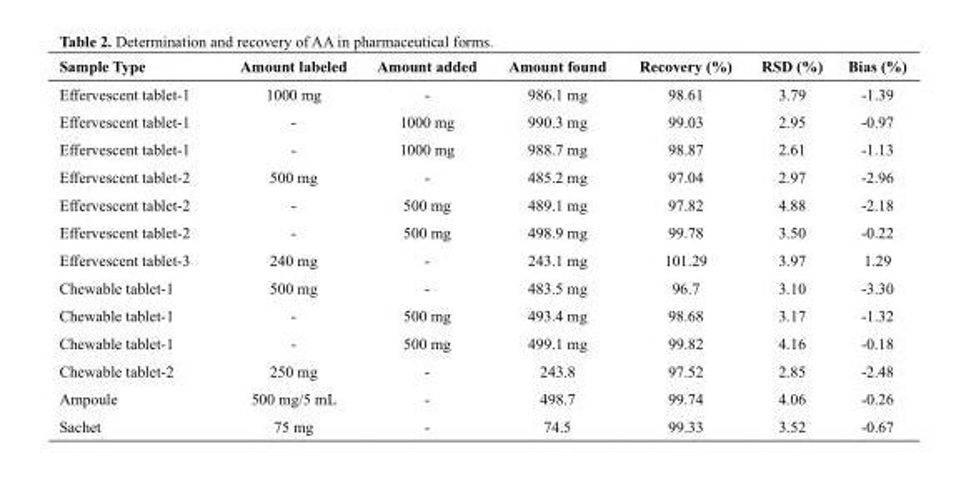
<table><tbody><tr><td>Sample Type</td><td>Amount labeled</td><td>Amount added</td><td>Amount found</td><td>Recovery (%)</td><td>RSD (%)</td><td>Bias (%)</td></tr><tr><td>Effervescent tablet-1</td><td>1000 mg</td><td>-</td><td>986.1 mg</td><td>98.61</td><td>3.79</td><td>-1.39</td></tr><tr><td>Effervescent tablet-1</td><td>-</td><td>1000 mg</td><td>990.3 mg</td><td>99.03</td><td>2.95</td><td>-0.97</td></tr><tr><td>Effervescent tablet-1</td><td>-</td><td>1000 mg</td><td>988.7 mg</td><td>98.87</td><td>2.61</td><td>-1.13</td></tr><tr><td>Effervescent tablet-2</td><td>500 mg</td><td>-</td><td>485.2 mg</td><td>97.04</td><td>2.97</td><td>-2.96</td></tr><tr><td>Effervescent tablet-2</td><td>-</td><td>500 mg</td><td>489.1 mg</td><td>97.82</td><td>4.88</td><td>-2.18</td></tr><tr><td>Effervescent tablet-2</td><td>-</td><td>500 mg</td><td>498.9 mg</td><td>99.78</td><td>3.50</td><td>-0.22</td></tr><tr><td>Effervescent tablet-3</td><td>240 mg</td><td>-</td><td>243.1 mg</td><td>101.29</td><td>3.97</td><td>1.29</td></tr><tr><td>Chewable tablet-1</td><td>500 mg</td><td>-</td><td>483.5 mg</td><td>96.7</td><td>3.10</td><td>-3.30</td></tr><tr><td>Chewable tablet-1</td><td>-</td><td>500 mg</td><td>493.4 mg</td><td>98.68</td><td>3.17</td><td>-1.32</td></tr><tr><td>Chewable tablet-1</td><td>-</td><td>500 mg</td><td>499.1 mg</td><td>99.82</td><td>4.16</td><td>-0.18</td></tr><tr><td>Chewable tablet-2</td><td>250 mg</td><td>-</td><td>243.8</td><td>97.52</td><td>2.85</td><td>-2.48</td></tr><tr><td>Ampoule</td><td>500 mg/5 mL</td><td>-</td><td>498.7</td><td>99.74</td><td>4.06</td><td>-0.26</td></tr><tr><td>Sachet</td><td>75 mg</td><td>-</td><td>74.5</td><td>99.33</td><td>3.52</td><td>-0.67</td></tr></tbody></table>